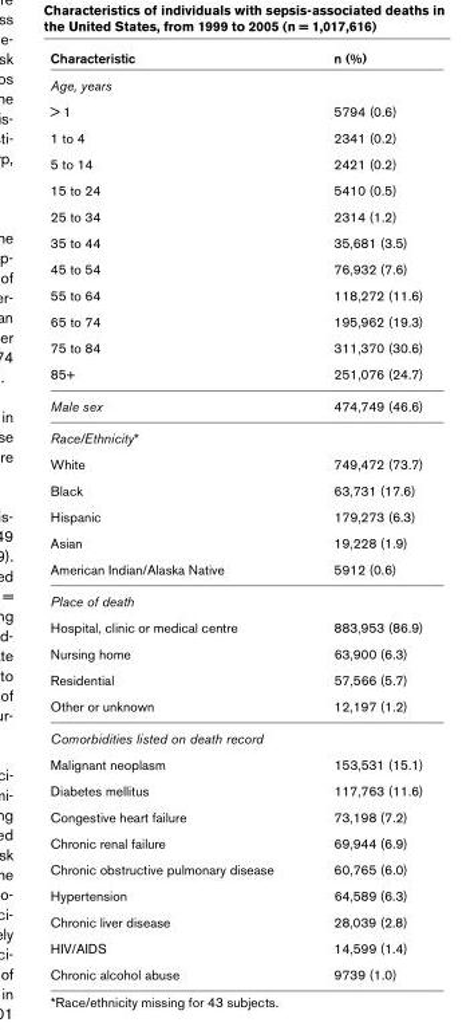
<table><thead><tr><td>Characteristic</td><td>n (%)</td></tr></thead><tbody><tr><td colspan="2">Age, years</td></tr><tr><td>&gt; 1</td><td>5794 (0.6)</td></tr><tr><td>1 to 4</td><td>2341 (0.2)</td></tr><tr><td>5 to 14</td><td>2421 (0.2)</td></tr><tr><td>15 to 24</td><td>5410 (0.5)</td></tr><tr><td>25 to 34</td><td>2314 (1.2)</td></tr><tr><td>35 to 44</td><td>35,681 (3.5)</td></tr><tr><td>45 to 54</td><td>76,932 (7.6)</td></tr><tr><td>55 to 64</td><td>118,272 (11.6)</td></tr><tr><td>65 to 74</td><td>195,962 (19.3)</td></tr><tr><td>75 to 84</td><td>311,370 (30.6)</td></tr><tr><td>85+</td><td>251,076 (24.7)</td></tr><tr><td>Male sex</td><td>474,749 (46.6)</td></tr><tr><td colspan="2">Race/Ethnicity*</td></tr><tr><td>White</td><td>749,472 (73.7)</td></tr><tr><td>Black</td><td>63,731 (17.6)</td></tr><tr><td>Hispanic</td><td>179,273 (6.3)</td></tr><tr><td>Asian</td><td>19,228 (1.9)</td></tr><tr><td>American Indian/Alaska Native</td><td>5912 (0.6)</td></tr><tr><td colspan="2">Place of death</td></tr><tr><td>Hospital, clinic or medical centre</td><td>883,953 (86.9)</td></tr><tr><td>Nursing home</td><td>63,900 (6.3)</td></tr><tr><td>Residential</td><td>57,566 (5.7)</td></tr><tr><td>Other or unknown</td><td>12,197 (1.2)</td></tr><tr><td colspan="2">Comorbidities listed on death record</td></tr><tr><td>Malignant neoplasm</td><td>153,531 (15.1)</td></tr><tr><td>Diabetes mellitus</td><td>117,763 (11.6)</td></tr><tr><td>Congestive heart failure</td><td>73,198 (7.2)</td></tr><tr><td>Chronic renal failure</td><td>69,944 (6.9)</td></tr><tr><td>Chronic obstructive pulmonary disease</td><td>60,765 (6.0)</td></tr><tr><td>Hypertension</td><td>64,589 (6.3)</td></tr><tr><td>Chronic liver disease</td><td>28,039 (2.8)</td></tr><tr><td>HIV/AIDS</td><td>14,599 (1.4)</td></tr><tr><td>Chronic alcohol abuse</td><td>9739 (1.0)</td></tr></tbody></table>